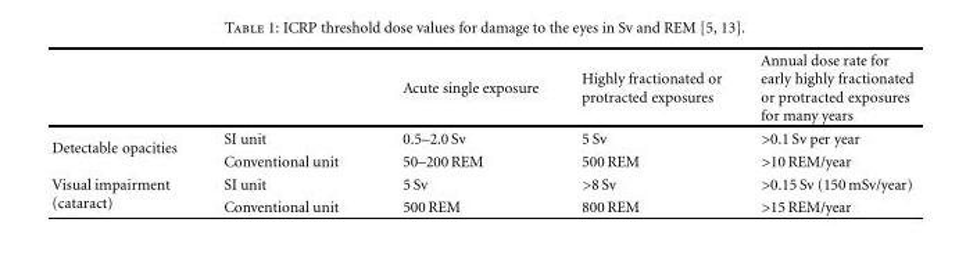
<table><thead><tr><td></td><td></td><td>Acute single exposure</td><td>Highly fractionated or protracted exposures</td><td>Annual dose rate for early highly fractionated or protracted exposures for many years</td></tr></thead><tbody><tr><td rowspan="2">Detectable opacities</td><td>SI unit</td><td>0.5–2.0 Sv</td><td>5 Sv</td><td>&gt;0.1 Sv per year</td></tr><tr><td>Conventional unit</td><td>50–200 REM</td><td>500 REM</td><td>&gt;10 REM/year</td></tr><tr><td rowspan="2">Visual impairment (cataract)</td><td>SI unit</td><td>5 Sv</td><td>&gt;8 Sv</td><td>&gt;0.15 Sv (150 mSv/year)</td></tr><tr><td>Conventional unit</td><td>500 REM</td><td>800 REM</td><td>&gt;15 REM/year</td></tr></tbody></table>